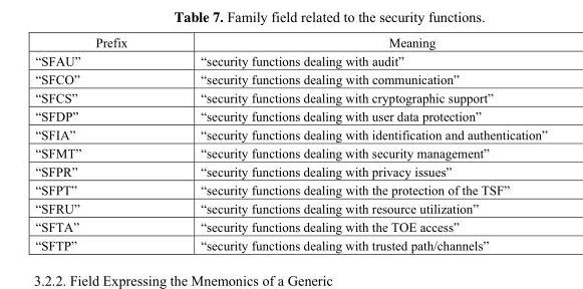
<table><thead><tr><td>Prefix</td><td>Meaning</td></tr></thead><tbody><tr><td>“SFAU”</td><td>“security functions dealing with audit”</td></tr><tr><td>“SFCO”</td><td>“security functions dealing with communication”</td></tr><tr><td>“SFCS”</td><td>“security functions dealing with cryptographic support”</td></tr><tr><td>“SFDP”</td><td>“security functions dealing with user data protection”</td></tr><tr><td>“SFIA”</td><td>“security functions dealing with identification and authentication”</td></tr><tr><td>“SFMT”</td><td>“security functions dealing with security management”</td></tr><tr><td>“SFPR”</td><td>“security functions dealing with privacy issues”</td></tr><tr><td>“SFPT”</td><td>“security functions dealing with the protection of the TSF”</td></tr><tr><td>“SFRU”</td><td>“security functions dealing with resource utilization”</td></tr><tr><td>“SFTA”</td><td>“security functions dealing with the TOE access”</td></tr><tr><td>“SFTP”</td><td>“security functions dealing with trusted path/channels”</td></tr></tbody></table>